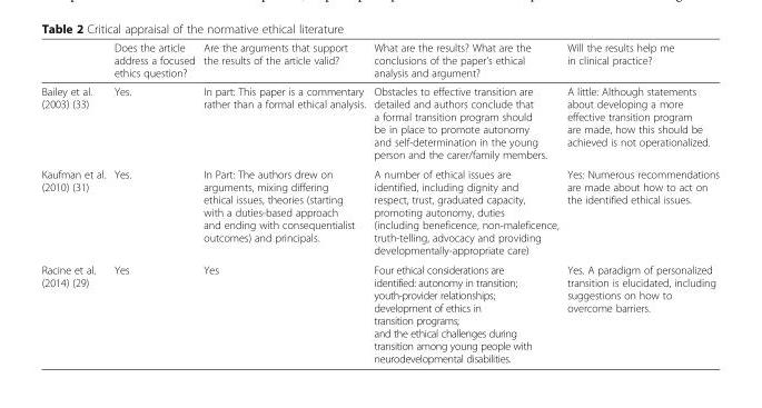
<table><thead><tr><td></td><td>Does the article address a focused ethics question?</td><td>Are the arguments that support the results of the article valid?</td><td>What are the results? What are the conclusions of the paper’s ethical analysis and argument?</td><td>Will the results help me in clinical practice?</td></tr></thead><tbody><tr><td>Bailey et al. (2003) (33)</td><td>Yes.</td><td>In part: This paper is a commentary rather than a formal ethical analysis.</td><td>Obstacles to effective transition are detailed and authors conclude that a formal transition program should be in place to promote autonomy and self-determination in the young person and the carer/family members.</td><td>A little: Although statements about developing a more effective transition program are made, how this should be achieved is not operationalized.</td></tr><tr><td>Kaufman et al. (2010) (31)</td><td>Yes.</td><td>In Part: The authors drew on arguments, mixing differing ethical issues, theories (starting with a duties-based approach and ending with consequentialist outcomes) and principals.</td><td>A number of ethical issues are identified, including dignity and respect, trust, graduated capacity, promoting autonomy, duties (including beneficence, non-maleficence, truth-telling, advocacy and providing developmentally-appropriate care)</td><td>Yes: Numerous recommendations are made about how to act on the identified ethical issues.</td></tr><tr><td>Racine et al. (2014) (29)</td><td>Yes</td><td>Yes</td><td>Four ethical considerations are identified: autonomy in transition; youth-provider relationships; development of ethics in transition programs; and the ethical challenges during transition among young people with neurodevelopmental disabilities.</td><td>Yes. A paradigm of personalized transition is elucidated, including suggestions on how to overcome barriers.</td></tr></tbody></table>